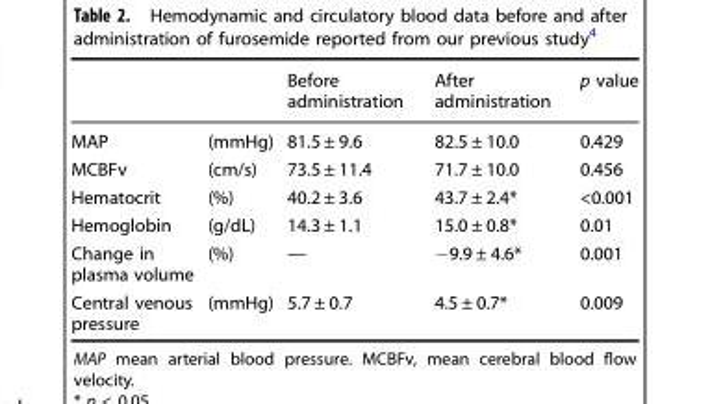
<table><thead><tr><td></td><td></td><td>Before administration</td><td>After administration</td><td>p value</td></tr></thead><tbody><tr><td>MAP</td><td>(mmHg)</td><td>81.5 ± 9.6</td><td>82.5 ± 10.0</td><td>0.429</td></tr><tr><td>MCBFv</td><td>(cm/s)</td><td>73.5 ± 11.4</td><td>71.7 ± 10.0</td><td>0.456</td></tr><tr><td>Hematocrit</td><td>(%)</td><td>40.2 ± 3.6</td><td>43.7 ± 2.4*</td><td>&lt;0.001</td></tr><tr><td>Hemoglobin</td><td>(g/dL)</td><td>14.3 ± 1.1</td><td>15.0 ± 0.8*</td><td>0.01</td></tr><tr><td>Change in plasma volume</td><td>(%)</td><td>—</td><td>−9.9 ± 4.6*</td><td>0.001</td></tr><tr><td>Central venous pressure</td><td>(mmHg)</td><td>5.7 ± 0.7</td><td>4.5 ± 0.7*</td><td>0.009</td></tr></tbody></table>